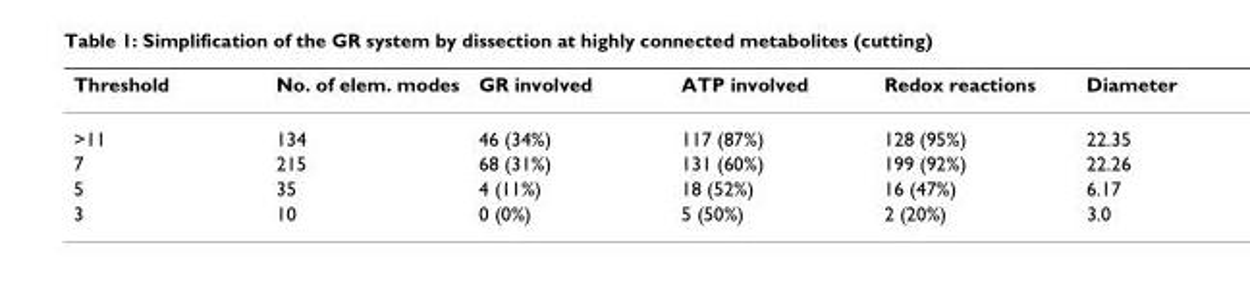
<table><thead><tr><td>Threshold</td><td>No. of elem. modes</td><td>GR involved</td><td>ATP involved</td><td>Redox reactions</td><td>Diameter</td></tr></thead><tbody><tr><td>&gt;11</td><td>134</td><td>46 (34%)</td><td>117 (87%)</td><td>128 (95%)</td><td>22.35</td></tr><tr><td>7</td><td>215</td><td>68 (31%)</td><td>131 (60%)</td><td>199 (92%)</td><td>22.26</td></tr><tr><td>5</td><td>35</td><td>4 (11%)</td><td>18 (52%)</td><td>16 (47%)</td><td>6.17</td></tr><tr><td>3</td><td>10</td><td>0 (0%)</td><td>5 (50%)</td><td>2 (20%)</td><td>3.0</td></tr></tbody></table>